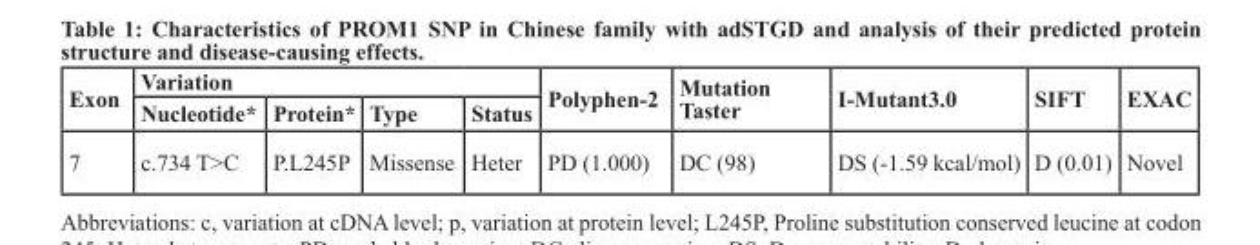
<table><thead><tr><td rowspan="2">Exon</td><td colspan="4">Variation</td><td rowspan="2">Polyphen-2</td><td rowspan="2">Mutation Taster</td><td rowspan="2">I-Mutant3.0</td><td rowspan="2">SIFT</td><td rowspan="2">EXAC</td></tr><tr><td>Nucleotide*</td><td>Protein*</td><td>Type</td><td>Status</td></tr></thead><tbody><tr><td>7</td><td>c.734 T&gt;C</td><td>P.L245P</td><td>Missense</td><td>Heter</td><td>PD (1.000)</td><td>DC (98)</td><td>DS (-1.59 kcal/mol)</td><td>D (0.01)</td><td>Novel</td></tr></tbody></table>